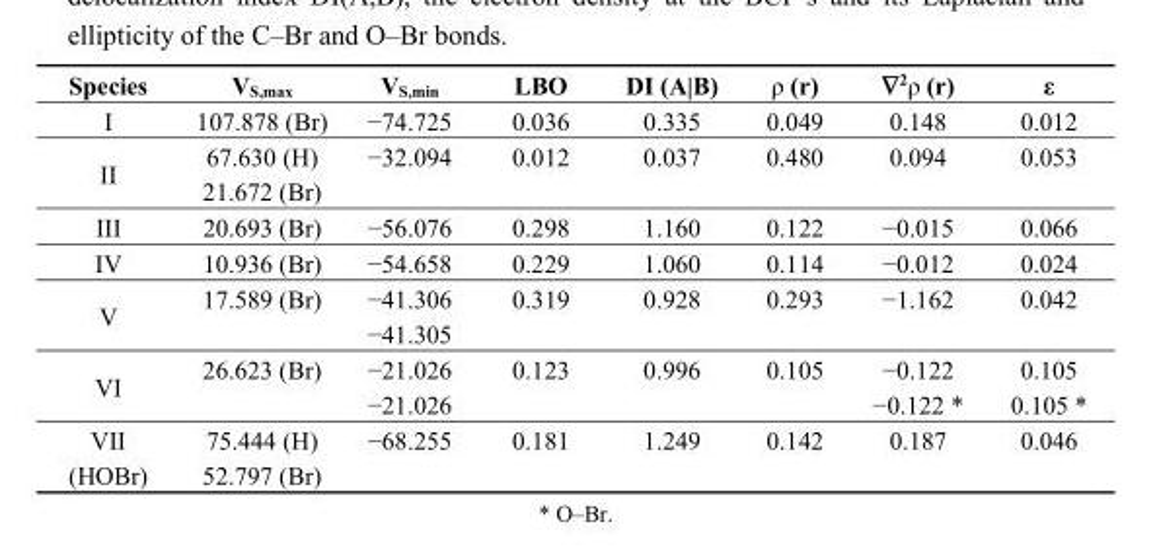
<table><thead><tr><td>Species</td><td>V<sub>S,max</sub></td><td>V<sub>S,min</sub></td><td>LBO</td><td>DI (A|B)</td><td>ρ (r)</td><td>∇<sup>2</sup>ρ (r)</td><td>ε</td></tr></thead><tbody><tr><td>I</td><td>107.878 (Br)</td><td>−74.725</td><td>0.036</td><td>0.335</td><td>0.049</td><td>0.148</td><td>0.012</td></tr><tr><td rowspan="2">II</td><td>67.630 (H)</td><td>−32.094</td><td>0.012</td><td>0.037</td><td>0.480</td><td>0.094</td><td>0.053</td></tr><tr><td>21.672 (Br)</td><td></td><td></td><td></td><td></td><td></td><td></td></tr><tr><td>III</td><td>20.693 (Br)</td><td>−56.076</td><td>0.298</td><td>1.160</td><td>0.122</td><td>−0.015</td><td>0.066</td></tr><tr><td>IV</td><td>10.936 (Br)</td><td>−54.658</td><td>0.229</td><td>1.060</td><td>0.114</td><td>−0.012</td><td>0.024</td></tr><tr><td rowspan="2">V</td><td>17.589 (Br)</td><td>−41.306</td><td>0.319</td><td>0.928</td><td>0.293</td><td>−1.162</td><td>0.042</td></tr><tr><td></td><td>−41.305</td><td></td><td></td><td></td><td></td><td></td></tr><tr><td rowspan="2">VI</td><td>26.623 (Br)</td><td>−21.026</td><td>0.123</td><td>0.996</td><td>0.105</td><td>−0.122</td><td>0.105</td></tr><tr><td></td><td>−21.026</td><td></td><td></td><td></td><td>−0.122 *</td><td>0.105 *</td></tr><tr><td rowspan="2">VII (HOBr)</td><td>75.444 (H)</td><td>−68.255</td><td>0.181</td><td>1.249</td><td>0.142</td><td>0.187</td><td>0.046</td></tr><tr><td>52.797 (Br)</td><td></td><td></td><td></td><td></td><td></td><td></td></tr></tbody></table>